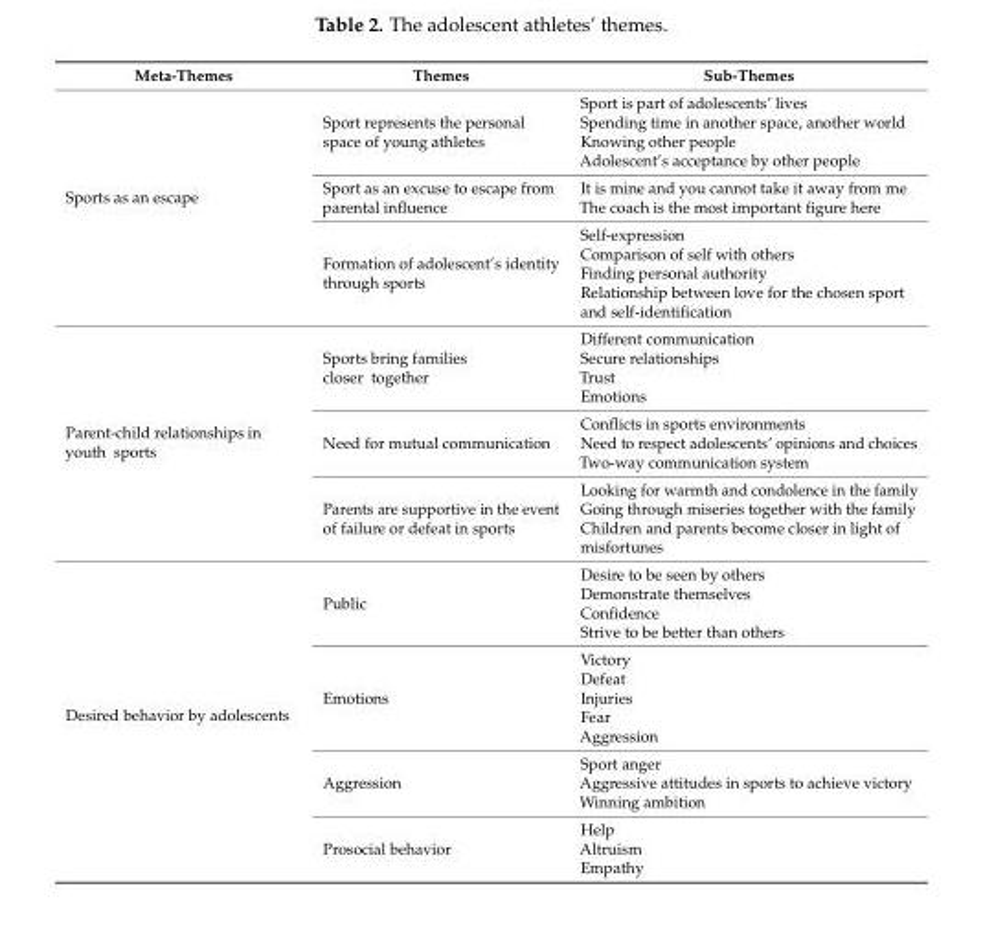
<table><thead><tr><td>Meta-Themes</td><td>Themes</td><td>Sub-Themes</td></tr></thead><tbody><tr><td rowspan="3">Sports as an escape</td><td>Sport represents the personal space of young athletes</td><td>Sport is part of adolescents’ lives Spending time in another space, another world Knowing other people Adolescent’s acceptance by other people</td></tr><tr><td>Sport as an excuse to escape from parental influence</td><td>It is mine and you cannot take it away from me The coach is the most important figure here</td></tr><tr><td>Formation of adolescent’s identity through sports</td><td>Self-expression Comparison of self with others Finding personal authority Relationship between love for the chosen sport and self-identification</td></tr><tr><td rowspan="3">Parent-child relationships in youth sports</td><td>Sports bring families closer together</td><td>Different communication Secure relationships Trust Emotions</td></tr><tr><td>Need for mutual communication</td><td>Conflicts in sports environments Need to respect adolescents’ opinions and choices Two-way communication system</td></tr><tr><td>Parents are supportive in the event of failure or defeat in sports</td><td>Looking for warmth and condolence in the family Going through miseries together with the family Children and parents become closer in light of misfortunes</td></tr><tr><td rowspan="4">Desired behavior by adolescents</td><td>Public</td><td>Desire to be seen by others Demonstrate themselves Confidence Strive to be better than others</td></tr><tr><td>Emotions</td><td>Victory Defeat Injuries Fear Aggression</td></tr><tr><td>Aggression</td><td>Sport anger Aggressive attitudes in sports to achieve victory Winning ambition</td></tr><tr><td>Prosocial behavior</td><td>Help Altruism Empathy</td></tr></tbody></table>